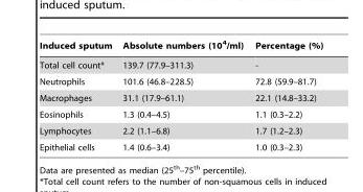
<table><thead><tr><td>Induced sputum</td><td>Absolute numbers (10<sup>4</sup>/ml)</td><td>Percentage (%)</td></tr></thead><tbody><tr><td>Total cell count*</td><td>139.7 (77.9–311.3)</td><td>-</td></tr><tr><td>Neutrophils</td><td>101.6 (46.8–228.5)</td><td>72.8 (59.9–81.7)</td></tr><tr><td>Macrophages</td><td>31.1 (17.9–61.1)</td><td>22.1 (14.8–33.2)</td></tr><tr><td>Eosinophils</td><td>1.3 (0.4–4.5)</td><td>1.1 (0.3–2.2)</td></tr><tr><td>Lymphocytes</td><td>2.2 (1.1–6.8)</td><td>1.7 (1.2–2.3)</td></tr><tr><td>Epithelial cells</td><td>1.4 (0.6–3.4)</td><td>1.0 (0.3–2.3)</td></tr></tbody></table>